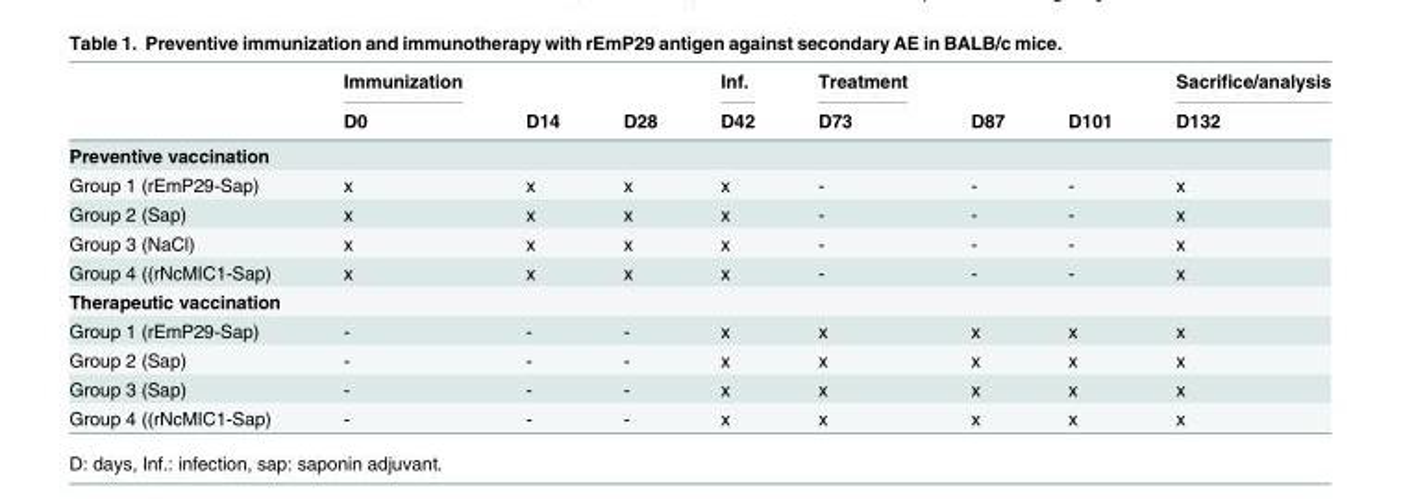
<table><thead><tr><td rowspan="2"></td><td rowspan="2">Immunization D0</td><td rowspan="2">D14</td><td rowspan="2">D28</td><td rowspan="2">Inf. D42</td><td rowspan="2">Treatment D73</td><td rowspan="2">D87</td><td rowspan="2">D101</td><td rowspan="2">Sacrifice/analysis D132</td></tr><tr></tr></thead><tbody><tr><td colspan="9">Preventive vaccination</td></tr><tr><td>Group 1 (rEmP29-Sap)</td><td>x</td><td>x</td><td>x</td><td>x</td><td>-</td><td>-</td><td>-</td><td>x</td></tr><tr><td>Group 2 (Sap)</td><td>x</td><td>x</td><td>x</td><td>x</td><td>-</td><td>-</td><td>-</td><td>x</td></tr><tr><td>Group 3 (NaCl)</td><td>x</td><td>x</td><td>x</td><td>x</td><td>-</td><td>-</td><td>-</td><td>x</td></tr><tr><td>Group 4 ((rNcMIC1-Sap)</td><td>x</td><td>x</td><td>x</td><td>x</td><td>-</td><td>-</td><td>-</td><td>x</td></tr><tr><td colspan="9">Therapeutic vaccination</td></tr><tr><td>Group 1 (rEmP29-Sap)</td><td>-</td><td>-</td><td>-</td><td>x</td><td>x</td><td>x</td><td>x</td><td>x</td></tr><tr><td>Group 2 (Sap)</td><td>-</td><td>-</td><td>-</td><td>x</td><td>x</td><td>x</td><td>x</td><td>x</td></tr><tr><td>Group 3 (Sap)</td><td>-</td><td>-</td><td>-</td><td>x</td><td>x</td><td>x</td><td>x</td><td>x</td></tr><tr><td>Group 4 ((rNcMIC1-Sap)</td><td>-</td><td>-</td><td>-</td><td>x</td><td>x</td><td>x</td><td>x</td><td>x</td></tr></tbody></table>